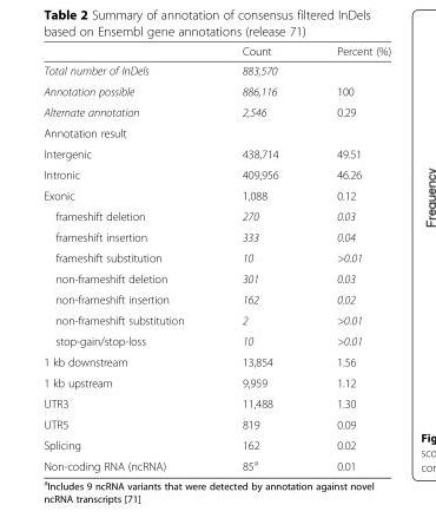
<table><thead><tr><td></td><td>Count</td><td>Percent (%)</td></tr></thead><tbody><tr><td>Total number of InDels</td><td>883,570</td><td></td></tr><tr><td>Annotation possible</td><td>886,116</td><td>100</td></tr><tr><td>Alternate annotation</td><td>2,546</td><td>0.29</td></tr><tr><td colspan="3">Annotation result</td></tr><tr><td>Intergenic</td><td>438,714</td><td>49.51</td></tr><tr><td>Intronic</td><td>409,956</td><td>46.26</td></tr><tr><td>Exonic</td><td>1,088</td><td>0.12</td></tr><tr><td>frameshift deletion</td><td>270</td><td>0.03</td></tr><tr><td>frameshift insertion</td><td>333</td><td>0.04</td></tr><tr><td>frameshift substitution</td><td>10</td><td>&gt;0.01</td></tr><tr><td>non-frameshift deletion</td><td>301</td><td>0.03</td></tr><tr><td>non-frameshift insertion</td><td>162</td><td>0.02</td></tr><tr><td>non-frameshift substitution</td><td>2</td><td>&gt;0.01</td></tr><tr><td>stop-gain/stop-loss</td><td>10</td><td>&gt;0.01</td></tr><tr><td>1 kb downstream</td><td>13,854</td><td>1.56</td></tr><tr><td>1 kb upstream</td><td>9,959</td><td>1.12</td></tr><tr><td>UTR3</td><td>11,488</td><td>1.30</td></tr><tr><td>UTR5</td><td>819</td><td>0.09</td></tr><tr><td>Splicing</td><td>162</td><td>0.02</td></tr><tr><td>Non-coding RNA (ncRNA)</td><td>85<sup>a</sup></td><td>0.01</td></tr></tbody></table>